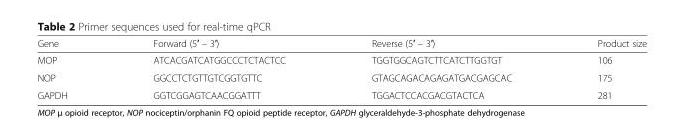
<table><thead><tr><td>Gene</td><td>Forward (5′ – 3′)</td><td>Reverse (5′ – 3′)</td><td>Product size</td></tr></thead><tbody><tr><td>MOP</td><td>ATCACGATCATGGCCCTCTACTCC</td><td>TGGTGGCAGTCTTCATCTTGGTGT</td><td>106</td></tr><tr><td>NOP</td><td>GGCCTCTGTTGTCGGTGTTC</td><td>GTAGCAGACAGAGATGACGAGCAC</td><td>175</td></tr><tr><td>GAPDH</td><td>GGTCGGAGTCAACGGATTT</td><td>TGGACTCCACGACGTACTCA</td><td>281</td></tr></tbody></table>